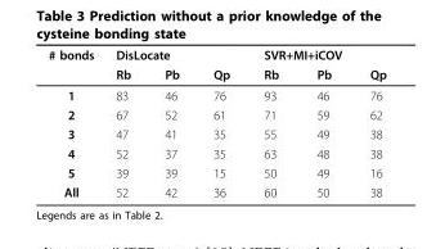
<table><thead><tr><td rowspan="2"># bonds</td><td colspan="3">DisLocate</td><td colspan="3">SVR+MI+iCOV</td></tr><tr><td>Rb</td><td>Pb</td><td>Qp</td><td>Rb</td><td>Pb</td><td>Qp</td></tr></thead><tbody><tr><td>1</td><td>83</td><td>46</td><td>76</td><td>93</td><td>46</td><td>76</td></tr><tr><td>2</td><td>67</td><td>52</td><td>61</td><td>71</td><td>59</td><td>62</td></tr><tr><td>3</td><td>47</td><td>41</td><td>35</td><td>55</td><td>49</td><td>38</td></tr><tr><td>4</td><td>52</td><td>37</td><td>35</td><td>63</td><td>48</td><td>38</td></tr><tr><td>5</td><td>39</td><td>39</td><td>15</td><td>50</td><td>49</td><td>16</td></tr><tr><td>All</td><td>52</td><td>42</td><td>36</td><td>60</td><td>50</td><td>38</td></tr></tbody></table>